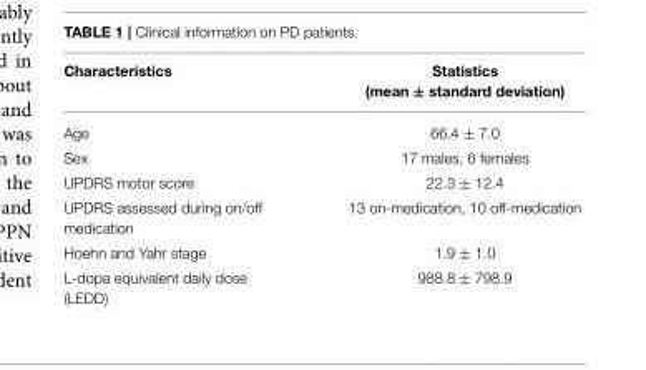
<table><thead><tr><td>Characteristics</td><td>Statistics (mean ± standard deviation)</td></tr></thead><tbody><tr><td>Age</td><td>66.4 ± 7.0</td></tr><tr><td>Sex</td><td>17 males, 6 females</td></tr><tr><td>UPDRS motor score</td><td>22.3 ± 12.4</td></tr><tr><td>UPDRS assessed during on/off medication</td><td>13 on-medication, 10 off-medication</td></tr><tr><td>Hoehn and Yahr stage</td><td>1.9 ± 1.0</td></tr><tr><td>L-dopa equivalent daily dose (LEDD)</td><td>988.8 ± 798.9</td></tr></tbody></table>